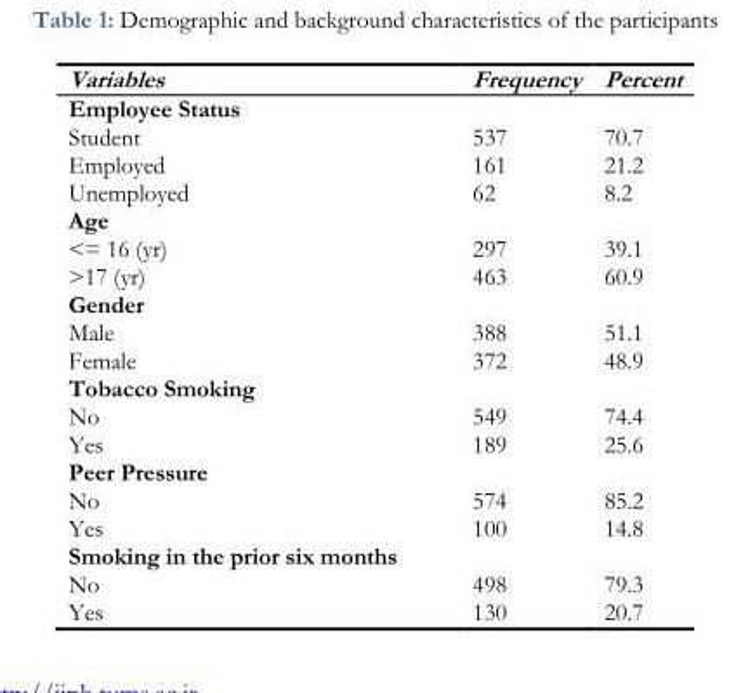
<table><thead><tr><td>Variables</td><td>Frequency</td><td>Percent</td></tr></thead><tbody><tr><td colspan="3">Employee Status</td></tr><tr><td>Student</td><td>537</td><td>70.7</td></tr><tr><td>Employed</td><td>161</td><td>21.2</td></tr><tr><td>Unemployed</td><td>62</td><td>8.2</td></tr><tr><td colspan="3">Age</td></tr><tr><td>&lt;= 16 (yr)</td><td>297</td><td>39.1</td></tr><tr><td>&gt;17 (yr)</td><td>463</td><td>60.9</td></tr><tr><td colspan="3">Gender</td></tr><tr><td>Male</td><td>388</td><td>51.1</td></tr><tr><td>Female</td><td>372</td><td>48.9</td></tr><tr><td colspan="3">Tobacco Smoking</td></tr><tr><td>No</td><td>549</td><td>74.4</td></tr><tr><td>Yes</td><td>189</td><td>25.6</td></tr><tr><td colspan="3">Peer Pressure</td></tr><tr><td>No</td><td>574</td><td>85.2</td></tr><tr><td>Yes</td><td>100</td><td>14.8</td></tr><tr><td colspan="3">Smoking in the prior six months</td></tr><tr><td>No</td><td>498</td><td>79.3</td></tr><tr><td>Yes</td><td>130</td><td>20.7</td></tr></tbody></table>